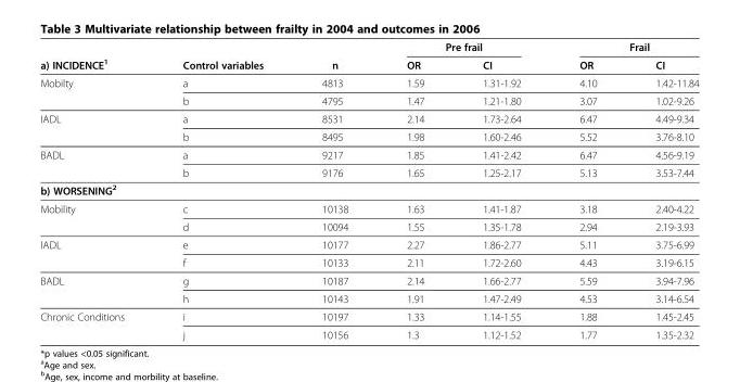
<table><thead><tr><td rowspan="2">a) INCIDENCE<sup>1</sup></td><td rowspan="2">Control variables</td><td rowspan="2">n</td><td rowspan="2">Pre frail OR</td><td rowspan="2">CI</td><td rowspan="2">Frail OR</td><td rowspan="2">CI</td></tr><tr></tr></thead><tbody><tr><td rowspan="2">Mobilty</td><td>a</td><td>4813</td><td>1.59</td><td>1.31-1.92</td><td>4.10</td><td>1.42-11.84</td></tr><tr><td>b</td><td>4795</td><td>1.47</td><td>1.21-1.80</td><td>3.07</td><td>1.02-9.26</td></tr><tr><td rowspan="2">IADL</td><td>a</td><td>8531</td><td>2.14</td><td>1.73-2.64</td><td>6.47</td><td>4.49-9.34</td></tr><tr><td>b</td><td>8495</td><td>1.98</td><td>1.60-2.46</td><td>5.52</td><td>3.76-8.10</td></tr><tr><td rowspan="2">BADL</td><td>a</td><td>9217</td><td>1.85</td><td>1.41-2.42</td><td>6.47</td><td>4.56-9.19</td></tr><tr><td>b</td><td>9176</td><td>1.65</td><td>1.25-2.17</td><td>5.13</td><td>3.53-7.44</td></tr><tr><td colspan="7">b) WORSENING<sup>2</sup></td></tr><tr><td rowspan="2">Mobility</td><td>c</td><td>10138</td><td>1.63</td><td>1.41-1.87</td><td>3.18</td><td>2.40-4.22</td></tr><tr><td>d</td><td>10094</td><td>1.55</td><td>1.35-1.78</td><td>2.94</td><td>2.19-3.93</td></tr><tr><td rowspan="2">IADL</td><td>e</td><td>10177</td><td>2.27</td><td>1.86-2.77</td><td>5.11</td><td>3.75-6.99</td></tr><tr><td>f</td><td>10133</td><td>2.11</td><td>1.72-2.60</td><td>4.43</td><td>3.19-6.15</td></tr><tr><td rowspan="2">BADL</td><td>g</td><td>10187</td><td>2.14</td><td>1.66-2.77</td><td>5.59</td><td>3.94-7.96</td></tr><tr><td>h</td><td>10143</td><td>1.91</td><td>1.47-2.49</td><td>4.53</td><td>3.14-6.54</td></tr><tr><td rowspan="2">Chronic Conditions</td><td>i</td><td>10197</td><td>1.33</td><td>1.14-1.55</td><td>1.88</td><td>1.45-2.45</td></tr><tr><td>j</td><td>10156</td><td>1.3</td><td>1.12-1.52</td><td>1.77</td><td>1.35-2.32</td></tr></tbody></table>